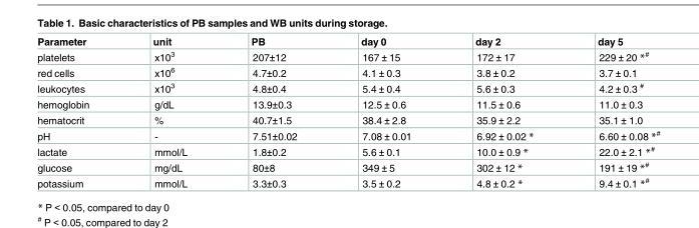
<table><thead><tr><td>Parameter</td><td>unit</td><td>PB</td><td>day 0</td><td>day 2</td><td>day 5</td></tr></thead><tbody><tr><td>platelets</td><td>x10<sup>3</sup></td><td>207±12</td><td>167 ± 15</td><td>172 ± 17</td><td>229 ± 20 *<sup>#</sup></td></tr><tr><td>red cells</td><td>x10<sup>6</sup></td><td>4.7±0.2</td><td>4.1 ± 0.3</td><td>3.8 ± 0.2</td><td>3.7 ± 0.1</td></tr><tr><td>leukocytes</td><td>x10<sup>3</sup></td><td>4.8±0.4</td><td>5.4 ± 0.4</td><td>5.6 ± 0.3</td><td>4.2 ± 0.3 <sup>#</sup></td></tr><tr><td>hemoglobin</td><td>g/dL</td><td>13.9±0.3</td><td>12.5 ± 0.6</td><td>11.5 ± 0.6</td><td>11.0 ± 0.3</td></tr><tr><td>hematocrit</td><td>%</td><td>40.7±1.5</td><td>38.4 ± 2.8</td><td>35.9 ± 2.2</td><td>35.1 ± 1.0</td></tr><tr><td>pH</td><td>-</td><td>7.51±0.02</td><td>7.08 ± 0.01</td><td>6.92 ± 0.02 *</td><td>6.60 ± 0.08 *<sup>#</sup></td></tr><tr><td>lactate</td><td>mmol/L</td><td>1.8±0.2</td><td>5.6 ± 0.1</td><td>10.0 ± 0.9 *</td><td>22.0 ± 2.1 *<sup>#</sup></td></tr><tr><td>glucose</td><td>mg/dL</td><td>80±8</td><td>349 ± 5</td><td>302 ± 12 *</td><td>191 ± 19 *<sup>#</sup></td></tr><tr><td>potassium</td><td>mmol/L</td><td>3.3±0.3</td><td>3.5 ± 0.2</td><td>4.8 ± 0.2 *</td><td>9.4 ± 0.1 *<sup>#</sup></td></tr></tbody></table>